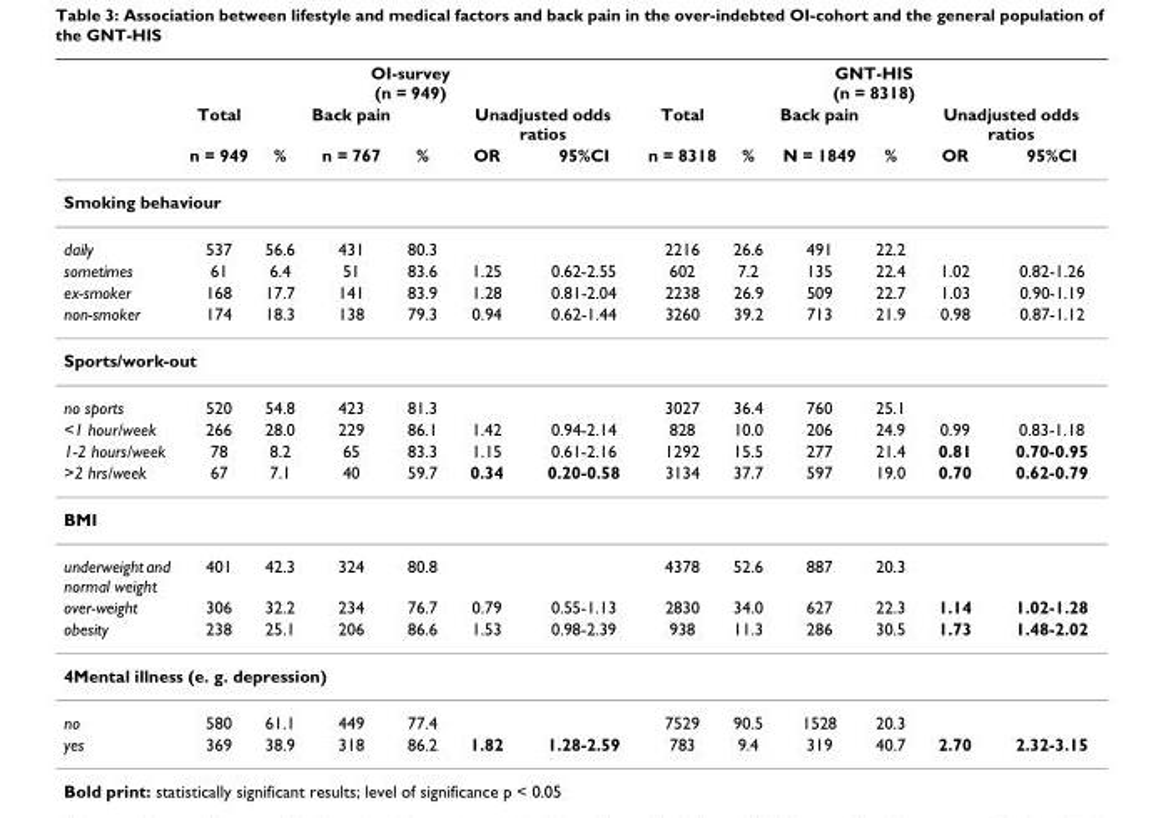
<table><thead><tr><td rowspan="3"></td><td colspan="6">OI-survey (n = 949)</td><td colspan="6">GNT-HIS (n = 8318)</td></tr><tr><td rowspan="2">Total n = 949</td><td rowspan="2">%</td><td rowspan="2">Back pain n = 767</td><td rowspan="2">%</td><td colspan="2">Unadjusted odds ratios</td><td rowspan="2">Total n = 8318</td><td rowspan="2">%</td><td rowspan="2">Back pain N = 1849</td><td rowspan="2">%</td><td colspan="2">Unadjusted odds ratios</td></tr><tr><td>OR</td><td>95%CI</td><td>OR</td><td>95%CI</td></tr></thead><tbody><tr><td colspan="13">Smoking behaviour</td></tr><tr><td>daily</td><td>537</td><td>56.6</td><td>431</td><td>80.3</td><td></td><td></td><td>2216</td><td>26.6</td><td>491</td><td>22.2</td><td></td><td></td></tr><tr><td>sometimes</td><td>61</td><td>6.4</td><td>51</td><td>83.6</td><td>1.25</td><td>0.62-2.55</td><td>602</td><td>7.2</td><td>135</td><td>22.4</td><td>1.02</td><td>0.82-1.26</td></tr><tr><td>ex-smoker</td><td>168</td><td>17.7</td><td>141</td><td>83.9</td><td>1.28</td><td>0.81-2.04</td><td>2238</td><td>26.9</td><td>509</td><td>22.7</td><td>1.03</td><td>0.90-1.19</td></tr><tr><td>non-smoker</td><td>174</td><td>18.3</td><td>138</td><td>79.3</td><td>0.94</td><td>0.62-1.44</td><td>3260</td><td>39.2</td><td>713</td><td>21.9</td><td>0.98</td><td>0.87-1.12</td></tr><tr><td colspan="13">Sports/work-out</td></tr><tr><td>no sports</td><td>520</td><td>54.8</td><td>423</td><td>81.3</td><td></td><td></td><td>3027</td><td>36.4</td><td>760</td><td>25.1</td><td></td><td></td></tr><tr><td>&lt;1 hour/week</td><td>266</td><td>28.0</td><td>229</td><td>86.1</td><td>1.42</td><td>0.94-2.14</td><td>828</td><td>10.0</td><td>206</td><td>24.9</td><td>0.99</td><td>0.83-1.18</td></tr><tr><td>1-2 hours/week</td><td>78</td><td>8.2</td><td>65</td><td>83.3</td><td>1.15</td><td>0.61-2.16</td><td>1292</td><td>15.5</td><td>277</td><td>21.4</td><td>0.81</td><td>0.70-0.95</td></tr><tr><td>&gt;2 hrs/week</td><td>67</td><td>7.1</td><td>40</td><td>59.7</td><td>0.34</td><td>0.20-0.58</td><td>3134</td><td>37.7</td><td>597</td><td>19.0</td><td>0.70</td><td>0.62-0.79</td></tr><tr><td colspan="13">BMI</td></tr><tr><td>underweight and normal weight</td><td>401</td><td>42.3</td><td>324</td><td>80.8</td><td></td><td></td><td>4378</td><td>52.6</td><td>887</td><td>20.3</td><td></td><td></td></tr><tr><td>over-weight</td><td>306</td><td>32.2</td><td>234</td><td>76.7</td><td>0.79</td><td>0.55-1.13</td><td>2830</td><td>34.0</td><td>627</td><td>22.3</td><td>1.14</td><td>1.02-1.28</td></tr><tr><td>obesity</td><td>238</td><td>25.1</td><td>206</td><td>86.6</td><td>1.53</td><td>0.98-2.39</td><td>938</td><td>11.3</td><td>286</td><td>30.5</td><td>1.73</td><td>1.48-2.02</td></tr><tr><td colspan="13">4Mental illness (e. g. depression)</td></tr><tr><td>no</td><td>580</td><td>61.1</td><td>449</td><td>77.4</td><td></td><td></td><td>7529</td><td>90.5</td><td>1528</td><td>20.3</td><td></td><td></td></tr><tr><td>yes</td><td>369</td><td>38.9</td><td>318</td><td>86.2</td><td>1.82</td><td>1.28-2.59</td><td>783</td><td>9.4</td><td>319</td><td>40.7</td><td>2.70</td><td>2.32-3.15</td></tr></tbody></table>